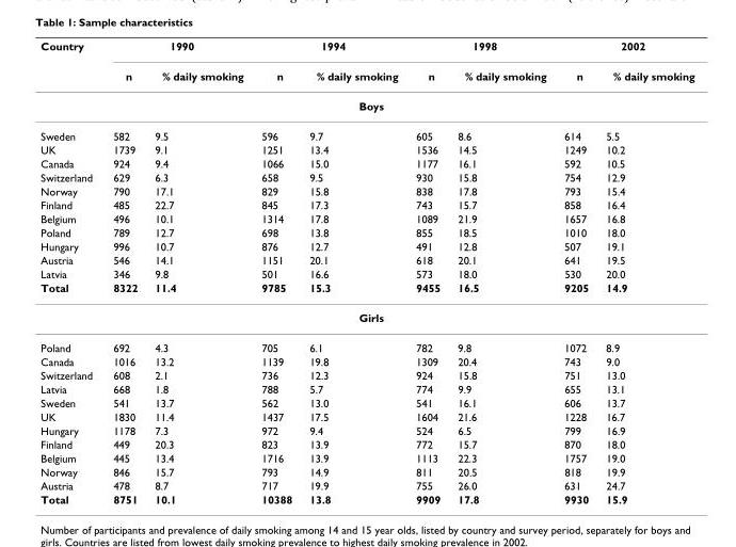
<table><thead><tr><td rowspan="2">Country</td><td colspan="2">1990</td><td colspan="2">1994</td><td colspan="2">1998</td><td colspan="2">2002</td></tr><tr><td>n</td><td>% daily smoking</td><td>n</td><td>% daily smoking</td><td>n</td><td>% daily smoking</td><td>n</td><td>% daily smoking</td></tr></thead><tbody><tr><td colspan="9">Boys</td></tr><tr><td>Sweden</td><td>582</td><td>9.5</td><td>596</td><td>9.7</td><td>605</td><td>8.6</td><td>614</td><td>5.5</td></tr><tr><td>UK</td><td>1739</td><td>9.1</td><td>1251</td><td>13.4</td><td>1536</td><td>14.5</td><td>1249</td><td>10.2</td></tr><tr><td>Canada</td><td>924</td><td>9.4</td><td>1066</td><td>15.0</td><td>1177</td><td>16.1</td><td>592</td><td>10.5</td></tr><tr><td>Switzerland</td><td>629</td><td>6.3</td><td>658</td><td>9.5</td><td>930</td><td>15.8</td><td>754</td><td>12.9</td></tr><tr><td>Norway</td><td>790</td><td>17.1</td><td>829</td><td>15.8</td><td>838</td><td>17.8</td><td>793</td><td>15.4</td></tr><tr><td>Finland</td><td>485</td><td>22.7</td><td>845</td><td>17.3</td><td>743</td><td>15.7</td><td>858</td><td>16.4</td></tr><tr><td>Belgium</td><td>496</td><td>10.1</td><td>1314</td><td>17.8</td><td>1089</td><td>21.9</td><td>1657</td><td>16.8</td></tr><tr><td>Poland</td><td>789</td><td>12.7</td><td>698</td><td>13.8</td><td>855</td><td>18.5</td><td>1010</td><td>18.0</td></tr><tr><td>Hungary</td><td>996</td><td>10.7</td><td>876</td><td>12.7</td><td>491</td><td>12.8</td><td>507</td><td>19.1</td></tr><tr><td>Austria</td><td>546</td><td>14.1</td><td>1151</td><td>20.1</td><td>618</td><td>20.1</td><td>641</td><td>19.5</td></tr><tr><td>Latvia</td><td>346</td><td>9.8</td><td>501</td><td>16.6</td><td>573</td><td>18.0</td><td>530</td><td>20.0</td></tr><tr><td>Total</td><td>8322</td><td>11.4</td><td>9785</td><td>15.3</td><td>9455</td><td>16.5</td><td>9205</td><td>14.9</td></tr><tr><td colspan="9">Girls</td></tr><tr><td>Poland</td><td>692</td><td>4.3</td><td>705</td><td>6.1</td><td>782</td><td>9.8</td><td>1072</td><td>8.9</td></tr><tr><td>Canada</td><td>1016</td><td>13.2</td><td>1139</td><td>19.8</td><td>1309</td><td>20.4</td><td>743</td><td>9.0</td></tr><tr><td>Switzerland</td><td>608</td><td>2.1</td><td>736</td><td>12.3</td><td>924</td><td>15.8</td><td>751</td><td>13.0</td></tr><tr><td>Latvia</td><td>668</td><td>1.8</td><td>788</td><td>5.7</td><td>774</td><td>9.9</td><td>655</td><td>13.1</td></tr><tr><td>Sweden</td><td>541</td><td>13.7</td><td>562</td><td>13.0</td><td>541</td><td>16.1</td><td>606</td><td>13.7</td></tr><tr><td>UK</td><td>1830</td><td>11.4</td><td>1437</td><td>17.5</td><td>1604</td><td>21.6</td><td>1228</td><td>16.7</td></tr><tr><td>Hungary</td><td>1178</td><td>7.3</td><td>972</td><td>9.4</td><td>524</td><td>6.5</td><td>799</td><td>16.9</td></tr><tr><td>Finland</td><td>449</td><td>20.3</td><td>823</td><td>13.9</td><td>772</td><td>15.7</td><td>870</td><td>18.0</td></tr><tr><td>Belgium</td><td>445</td><td>13.4</td><td>1716</td><td>13.9</td><td>1113</td><td>22.3</td><td>1757</td><td>19.0</td></tr><tr><td>Norway</td><td>846</td><td>15.7</td><td>793</td><td>14.9</td><td>811</td><td>20.5</td><td>818</td><td>19.9</td></tr><tr><td>Austria</td><td>478</td><td>8.7</td><td>717</td><td>19.9</td><td>755</td><td>26.0</td><td>631</td><td>24.7</td></tr><tr><td>Total</td><td>8751</td><td>10.1</td><td>10388</td><td>13.8</td><td>9909</td><td>17.8</td><td>9930</td><td>15.9</td></tr></tbody></table>